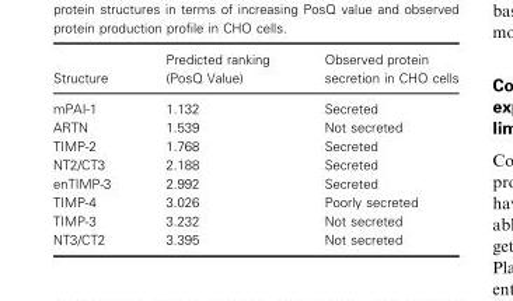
<table><thead><tr><td>Structure</td><td>Predicted ranking (PosQ Value)</td><td>Observed protein secretion in CHO cells</td></tr></thead><tbody><tr><td>mPAI-1</td><td>1.132</td><td>Secreted</td></tr><tr><td>ARTN</td><td>1.539</td><td>Not secreted</td></tr><tr><td>TIMP-2</td><td>1.768</td><td>Secreted</td></tr><tr><td>NT2/CT3</td><td>2.188</td><td>Secreted</td></tr><tr><td>enTIMP-3</td><td>2.992</td><td>Secreted</td></tr><tr><td>TIMP-4</td><td>3.026</td><td>Poorly secreted</td></tr><tr><td>TIMP-3</td><td>3.232</td><td>Not secreted</td></tr><tr><td>NT3/CT2</td><td>3.395</td><td>Not secreted</td></tr></tbody></table>